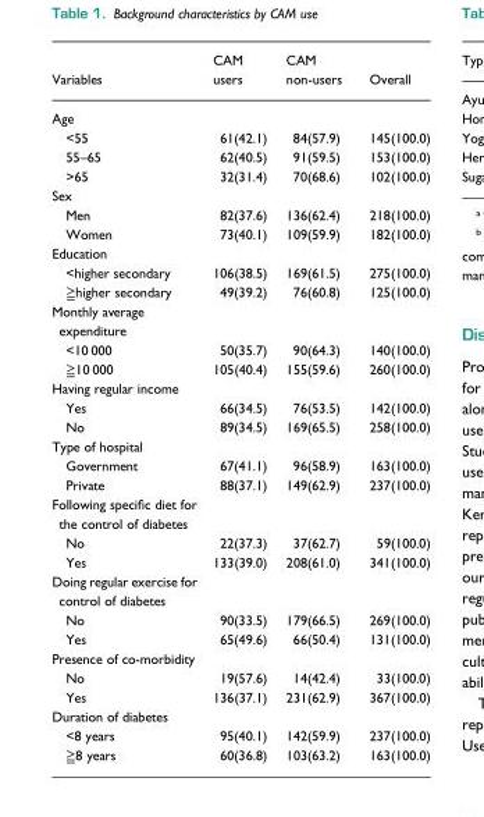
<table><thead><tr><td>Variables</td><td>CAM users</td><td>CAM non-users</td><td>Overall</td></tr></thead><tbody><tr><td colspan="4">Age</td></tr><tr><td>&lt;55</td><td>61(42.1)</td><td>84(57.9)</td><td>145(100.0)</td></tr><tr><td>55–65</td><td>62(40.5)</td><td>91(59.5)</td><td>153(100.0)</td></tr><tr><td>&gt;65</td><td>32(31.4)</td><td>70(68.6)</td><td>102(100.0)</td></tr><tr><td colspan="4">Sex</td></tr><tr><td>Men</td><td>82(37.6)</td><td>136(62.4)</td><td>218(100.0)</td></tr><tr><td>Women</td><td>73(40.1)</td><td>109(59.9)</td><td>182(100.0)</td></tr><tr><td colspan="4">Education</td></tr><tr><td>&lt;higher secondary</td><td>106(38.5)</td><td>169(61.5)</td><td>275(100.0)</td></tr><tr><td>≧higher secondary</td><td>49(39.2)</td><td>76(60.8)</td><td>125(100.0)</td></tr><tr><td colspan="4">Monthly average expenditure</td></tr><tr><td>&lt;10 000</td><td>50(35.7)</td><td>90(64.3)</td><td>140(100.0)</td></tr><tr><td>≧10 000</td><td>105(40.4)</td><td>155(59.6)</td><td>260(100.0)</td></tr><tr><td colspan="4">Having regular income</td></tr><tr><td>Yes</td><td>66(34.5)</td><td>76(53.5)</td><td>142(100.0)</td></tr><tr><td>No</td><td>89(34.5)</td><td>169(65.5)</td><td>258(100.0)</td></tr><tr><td colspan="4">Type of hospital</td></tr><tr><td>Government</td><td>67(41.1)</td><td>96(58.9)</td><td>163(100.0)</td></tr><tr><td>Private</td><td>88(37.1)</td><td>149(62.9)</td><td>237(100.0)</td></tr><tr><td colspan="4">Following specific diet for the control of diabetes</td></tr><tr><td>No</td><td>22(37.3)</td><td>37(62.7)</td><td>59(100.0)</td></tr><tr><td>Yes</td><td>133(39.0)</td><td>208(61.0)</td><td>341(100.0)</td></tr><tr><td colspan="4">Doing regular exercise for control of diabetes</td></tr><tr><td>No</td><td>90(33.5)</td><td>179(66.5)</td><td>269(100.0)</td></tr><tr><td>Yes</td><td>65(49.6)</td><td>66(50.4)</td><td>131(100.0)</td></tr><tr><td colspan="4">Presence of co-morbidity</td></tr><tr><td>No</td><td>19(57.6)</td><td>14(42.4)</td><td>33(100.0)</td></tr><tr><td>Yes</td><td>136(37.1)</td><td>231(62.9)</td><td>367(100.0)</td></tr><tr><td colspan="4">Duration of diabetes</td></tr><tr><td>&lt;8 years</td><td>95(40.1)</td><td>142(59.9)</td><td>237(100.0)</td></tr><tr><td>≧8 years</td><td>60(36.8)</td><td>103(63.2)</td><td>163(100.0)</td></tr></tbody></table>